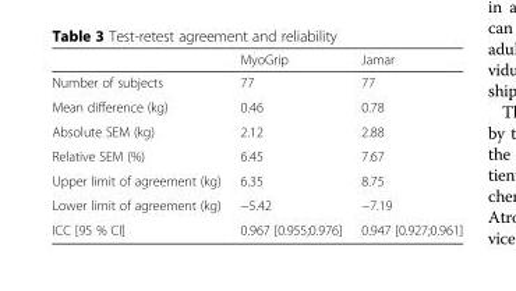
<table><thead><tr><td></td><td>MyoGrip</td><td>Jamar</td></tr></thead><tbody><tr><td>Number of subjects</td><td>77</td><td>77</td></tr><tr><td>Mean difference (kg)</td><td>0.46</td><td>0.78</td></tr><tr><td>Absolute SEM (kg)</td><td>2.12</td><td>2.88</td></tr><tr><td>Relative SEM (%)</td><td>6.45</td><td>7.67</td></tr><tr><td>Upper limit of agreement (kg)</td><td>6.35</td><td>8.75</td></tr><tr><td>Lower limit of agreement (kg)</td><td>−5.42</td><td>−7.19</td></tr><tr><td>ICC [95 % CI]</td><td>0.967 [0.955;0.976]</td><td>0.947 [0.927;0.961]</td></tr></tbody></table>